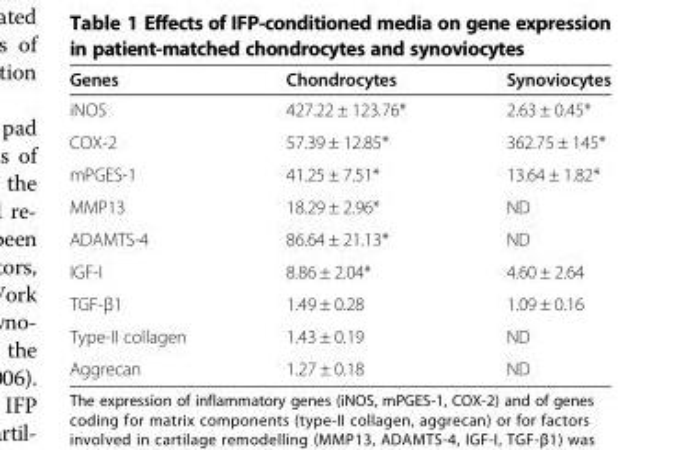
<table><thead><tr><td>Genes</td><td>Chondrocytes</td><td>Synoviocytes</td></tr></thead><tbody><tr><td>iNOS</td><td>427.22 ± 123.76*</td><td>2.63 ± 0.45*</td></tr><tr><td>COX-2</td><td>57.39 ± 12.85*</td><td>362.75 ± 145*</td></tr><tr><td>mPGES-1</td><td>41.25 ± 7.51*</td><td>13.64 ± 1.82*</td></tr><tr><td>MMP13</td><td>18.29 ± 2.96*</td><td>ND</td></tr><tr><td>ADAMTS-4</td><td>86.64 ± 21.13*</td><td>ND</td></tr><tr><td>IGF-I</td><td>8.86 ± 2.04*</td><td>4.60 ± 2.64</td></tr><tr><td>TGF-β1</td><td>1.49 ± 0.28</td><td>1.09 ± 0.16</td></tr><tr><td>Type-II collagen</td><td>1.43 ± 0.19</td><td>ND</td></tr><tr><td>Aggrecan</td><td>1.27 ± 0.18</td><td>ND</td></tr></tbody></table>